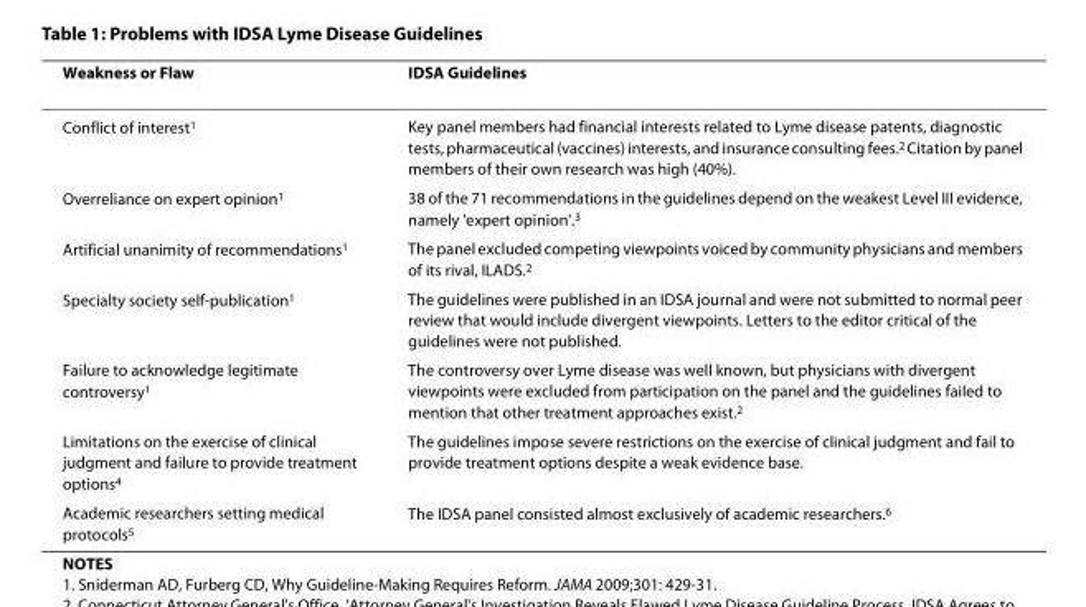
<table><thead><tr><td>Weakness or Flaw</td><td>IDSA Guidelines</td></tr></thead><tbody><tr><td>Conflict of interest<sup>1</sup></td><td>Key panel members had financial interests related to Lyme disease patents, diagnostic tests, pharmaceutical (vaccines) interests, and insurance consulting fees.<sup>2</sup> Citation by panel members of their own research was high (40%).</td></tr><tr><td>Overreliance on expert opinion<sup>1</sup></td><td>38 of the 71 recommendations in the guidelines depend on the weakest Level III evidence, namely &#x27;expert opinion&#x27;.<sup>3</sup></td></tr><tr><td>Artificial unanimity of recommendations<sup>1</sup></td><td>The panel excluded competing viewpoints voiced by community physicians and members of its rival, ILADS.<sup>2</sup></td></tr><tr><td>Specialty society self-publication<sup>1</sup></td><td>The guidelines were published in an IDSA journal and were not submitted to normal peer review that would include divergent viewpoints. Letters to the editor critical of the guidelines were not published.</td></tr><tr><td>Failure to acknowledge legitimate controversy<sup>1</sup></td><td>The controversy over Lyme disease was well known, but physicians with divergent viewpoints were excluded from participation on the panel and the guidelines failed to mention that other treatment approaches exist.<sup>2</sup></td></tr><tr><td>Limitations on the exercise of clinical judgment and failure to provide treatment options<sup>4</sup></td><td>The guidelines impose severe restrictions on the exercise of clinical judgment and fail to provide treatment options despite a weak evidence base.</td></tr><tr><td>Academic researchers setting medical protocols<sup>5</sup></td><td>The IDSA panel consisted almost exclusively of academic researchers.<sup>6</sup></td></tr></tbody></table>